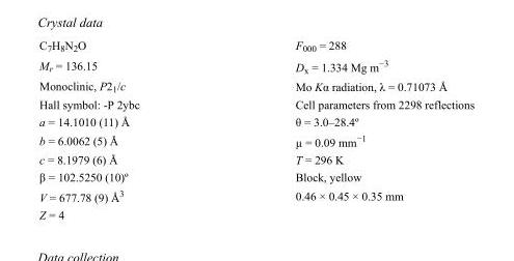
<table><tbody><tr><td>C<sub>7</sub>H<sub>8</sub>N<sub>2</sub>O</td><td>F000 = 288</td></tr><tr><td>M<sub>r</sub> = 136.15</td><td>D<sub>x</sub> = 1.334 Mg m<sup>−3</sup></td></tr><tr><td>Monoclinic, P2<sub>1</sub>/c</td><td>Mo Kα radiation, λ = 0.71073 Å</td></tr><tr><td>Hall symbol: -P 2ybc</td><td>Cell parameters from 2298 reflections</td></tr><tr><td>a = 14.1010 (11) Å</td><td>θ = 3.0–28.4º</td></tr><tr><td>b = 6.0062 (5) Å</td><td>µ = 0.09 mm<sup>−1</sup></td></tr><tr><td>c = 8.1979 (6) Å</td><td>T = 296 K</td></tr><tr><td>β = 102.5250 (10)º</td><td>Block, yellow</td></tr><tr><td>V = 677.78 (9) Å<sup>3</sup></td><td>0.46 × 0.45 × 0.35 mm</td></tr><tr><td>Z = 4</td><td></td></tr></tbody></table>